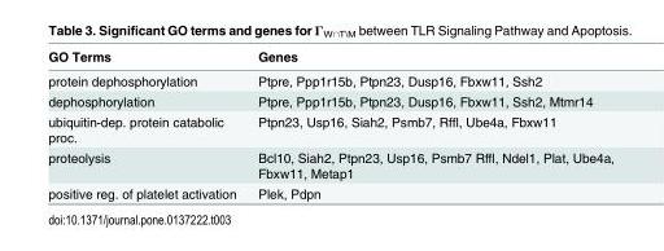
<table><thead><tr><td>GO Terms</td><td>Genes</td></tr></thead><tbody><tr><td>protein dephosphorylation</td><td>Ptpre, Ppp1r15b, Ptpn23, Dusp16, Fbxw11, Ssh2</td></tr><tr><td>dephosphorylation</td><td>Ptpre, Ppp1r15b, Ptpn23, Dusp16, Fbxw11, Ssh2, Mtmr14</td></tr><tr><td>ubiquitin-dep. protein catabolic proc.</td><td>Ptpn23, Usp16, Siah2, Psmb7, Rffl, Ube4a, Fbxw11</td></tr><tr><td>proteolysis</td><td>Bcl10, Siah2, Ptpn23, Usp16, Psmb7 Rffl, Ndel1, Plat, Ube4a, Fbxw11, Metap1</td></tr><tr><td>positive reg. of platelet activation</td><td>Plek, Pdpn</td></tr></tbody></table>